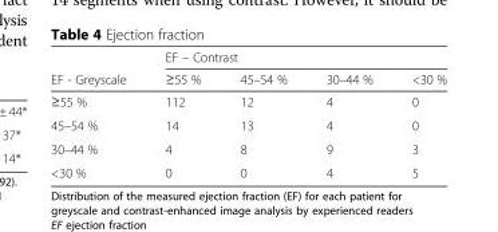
<table><thead><tr><td rowspan="2">EF - Greyscale</td><td colspan="4">EF – Contrast</td></tr><tr><td>≥55 %</td><td>45–54 %</td><td>30–44 %</td><td>&lt;30 %</td></tr></thead><tbody><tr><td>≥55 %</td><td>112</td><td>12</td><td>4</td><td>0</td></tr><tr><td>45–54 %</td><td>14</td><td>13</td><td>4</td><td>0</td></tr><tr><td>30–44 %</td><td>4</td><td>8</td><td>9</td><td>3</td></tr><tr><td>&lt;30 %</td><td>0</td><td>0</td><td>4</td><td>5</td></tr></tbody></table>